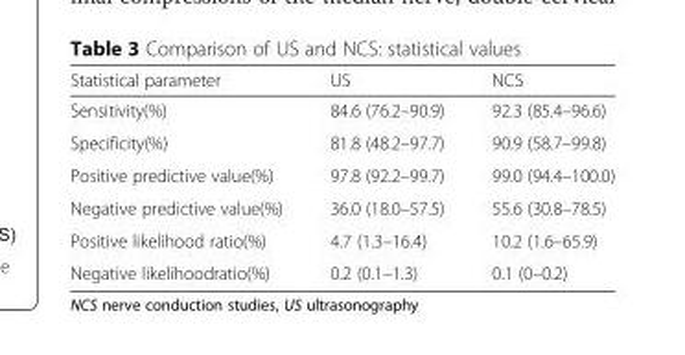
<table><thead><tr><td>Statistical parameter</td><td>US</td><td>NCS</td></tr></thead><tbody><tr><td>Sensitivity(%)</td><td>84.6 (76.2–90.9)</td><td>92.3 (85.4–96.6)</td></tr><tr><td>Specificity(%)</td><td>81.8 (48.2–97.7)</td><td>90.9 (58.7–99.8)</td></tr><tr><td>Positive predictive value(%)</td><td>97.8 (92.2–99.7)</td><td>99.0 (94.4–100.0)</td></tr><tr><td>Negative predictive value(%)</td><td>36.0 (18.0–57.5)</td><td>55.6 (30.8–78.5)</td></tr><tr><td>Positive likelihood ratio(%)</td><td>4.7 (1.3–16.4)</td><td>10.2 (1.6–65.9)</td></tr><tr><td>Negative likelihoodratio(%)</td><td>0.2 (0.1–1.3)</td><td>0.1 (0–0.2)</td></tr></tbody></table>